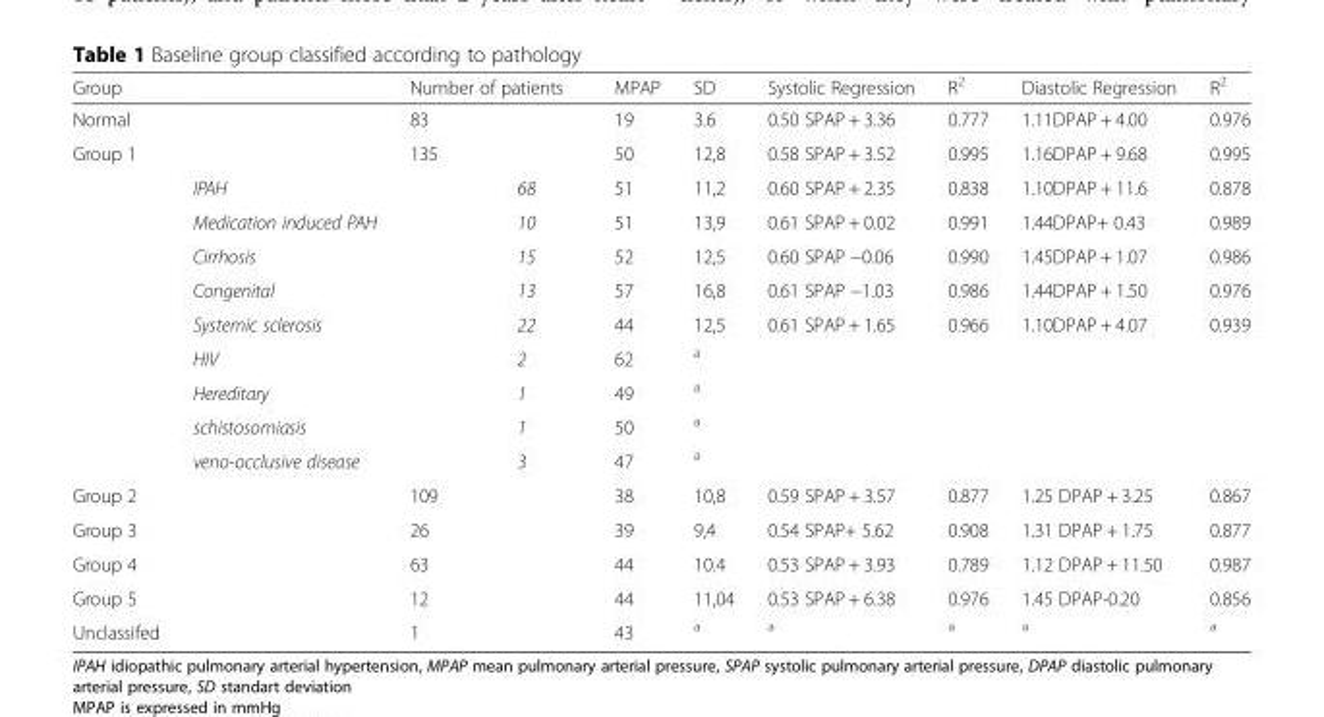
<table><thead><tr><td rowspan="2">Group Normal</td><td rowspan="2"></td><td colspan="2">Number of patients</td><td rowspan="2">MPAP 19</td><td rowspan="2">SD 3.6</td><td rowspan="2">Systolic Regression 0.50 SPAP + 3.36</td><td rowspan="2">R<sup>2</sup> 0.777</td><td rowspan="2">Diastolic Regression 1.11DPAP + 4.00</td><td rowspan="2">R<sup>2</sup> 0.976</td></tr><tr><td>83</td><td></td></tr></thead><tbody><tr><td rowspan="10">Group 1</td><td></td><td>135</td><td></td><td>50</td><td>12,8</td><td>0.58 SPAP + 3.52</td><td>0.995</td><td>1.16DPAP + 9.68</td><td>0.995</td></tr><tr><td>IPAH</td><td></td><td>68</td><td>51</td><td>11,2</td><td>0.60 SPAP + 2.35</td><td>0.838</td><td>1.10DPAP + 11.6</td><td>0.878</td></tr><tr><td>Medication induced PAH</td><td></td><td>10</td><td>51</td><td>13,9</td><td>0.61 SPAP + 0.02</td><td>0.991</td><td>1.44DPAP+ 0.43</td><td>0.989</td></tr><tr><td>Cirrhosis</td><td></td><td>15</td><td>52</td><td>12,5</td><td>0.60 SPAP −0.06</td><td>0.990</td><td>1.45DPAP + 1.07</td><td>0.986</td></tr><tr><td>Congenital</td><td></td><td>13</td><td>57</td><td>16,8</td><td>0.61 SPAP −1.03</td><td>0.986</td><td>1.44DPAP + 1.50</td><td>0.976</td></tr><tr><td colspan="2">Systemic sclerosis</td><td>22</td><td>44</td><td>12,5</td><td>0.61 SPAP + 1.65</td><td>0.966</td><td>1.10DPAP + 4.07</td><td>0.939</td></tr><tr><td>HIV</td><td></td><td>2</td><td>62</td><td><sup>a</sup></td><td></td><td></td><td></td><td></td></tr><tr><td>Hereditary</td><td></td><td>1</td><td>49</td><td><sup>a</sup></td><td></td><td></td><td></td><td></td></tr><tr><td colspan="2">schistosomiasis</td><td>1</td><td>50</td><td><sup>a</sup></td><td></td><td></td><td></td><td></td></tr><tr><td colspan="2">veno-occlusive disease</td><td>3</td><td>47</td><td><sup>a</sup></td><td></td><td></td><td></td><td></td></tr><tr><td>Group 2</td><td></td><td>109</td><td></td><td>38</td><td>10,8</td><td>0.59 SPAP + 3.57</td><td>0.877</td><td>1.25 DPAP + 3.25</td><td>0.867</td></tr><tr><td>Group 3</td><td></td><td>26</td><td></td><td>39</td><td>9,4</td><td>0.54 SPAP+ 5.62</td><td>0.908</td><td>1.31 DPAP + 1.75</td><td>0.877</td></tr><tr><td>Group 4</td><td></td><td>63</td><td></td><td>44</td><td>10.4</td><td>0.53 SPAP + 3.93</td><td>0.789</td><td>1.12 DPAP + 11.50</td><td>0.987</td></tr><tr><td>Group 5</td><td></td><td>12</td><td></td><td>44</td><td>11,04</td><td>0.53 SPAP + 6.38</td><td>0.976</td><td>1.45 DPAP-0.20</td><td>0.856</td></tr><tr><td>Unclassifed</td><td></td><td>1</td><td></td><td>43</td><td><sup>a</sup></td><td><sup>a</sup></td><td><sup>a</sup></td><td><sup>a</sup></td><td><sup>a</sup></td></tr></tbody></table>